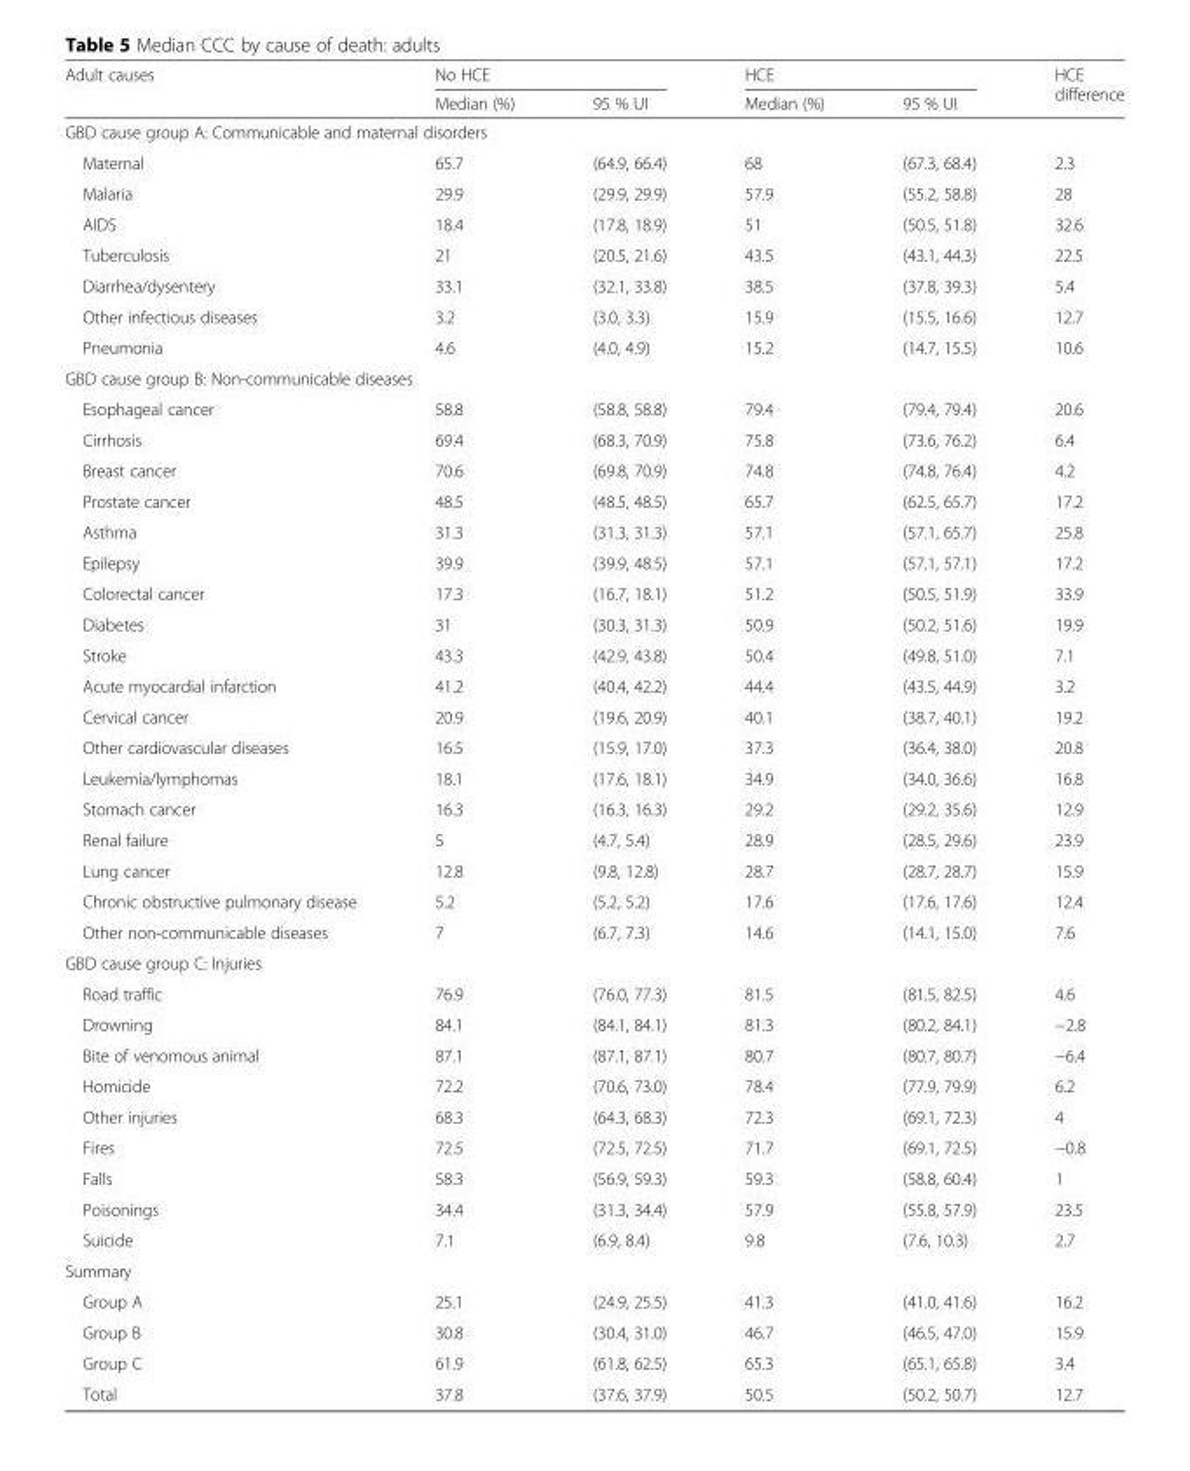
<table><thead><tr><td rowspan="2">Adult causes</td><td colspan="2">No HCE</td><td colspan="2">HCE</td><td rowspan="2">HCE difference</td></tr><tr><td>Median (%)</td><td>95 % UI</td><td>Median (%)</td><td>95 % UI</td></tr></thead><tbody><tr><td colspan="6">GBD cause group A: Communicable and maternal disorders</td></tr><tr><td>Maternal</td><td>65.7</td><td>(64.9, 66.4)</td><td>68</td><td>(67.3, 68.4)</td><td>2.3</td></tr><tr><td>Malaria</td><td>29.9</td><td>(29.9, 29.9)</td><td>57.9</td><td>(55.2, 58.8)</td><td>28</td></tr><tr><td>AIDS</td><td>18.4</td><td>(17.8, 18.9)</td><td>51</td><td>(50.5, 51.8)</td><td>32.6</td></tr><tr><td>Tuberculosis</td><td>21</td><td>(20.5, 21.6)</td><td>43.5</td><td>(43.1, 44.3)</td><td>22.5</td></tr><tr><td>Diarrhea/dysentery</td><td>33.1</td><td>(32.1, 33.8)</td><td>38.5</td><td>(37.8, 39.3)</td><td>5.4</td></tr><tr><td>Other infectious diseases</td><td>3.2</td><td>(3.0, 3.3)</td><td>15.9</td><td>(15.5, 16.6)</td><td>12.7</td></tr><tr><td>Pneumonia</td><td>4.6</td><td>(4.0, 4.9)</td><td>15.2</td><td>(14.7, 15.5)</td><td>10.6</td></tr><tr><td colspan="6">GBD cause group B: Non-communicable diseases</td></tr><tr><td>Esophageal cancer</td><td>58.8</td><td>(58.8, 58.8)</td><td>79.4</td><td>(79.4, 79.4)</td><td>20.6</td></tr><tr><td>Cirrhosis</td><td>69.4</td><td>(68.3, 70.9)</td><td>75.8</td><td>(73.6, 76.2)</td><td>6.4</td></tr><tr><td>Breast cancer</td><td>70.6</td><td>(69.8, 70.9)</td><td>74.8</td><td>(74.8, 76.4)</td><td>4.2</td></tr><tr><td>Prostate cancer</td><td>48.5</td><td>(48.5, 48.5)</td><td>65.7</td><td>(62.5, 65.7)</td><td>17.2</td></tr><tr><td>Asthma</td><td>31.3</td><td>(31.3, 31.3)</td><td>57.1</td><td>(57.1, 65.7)</td><td>25.8</td></tr><tr><td>Epilepsy</td><td>39.9</td><td>(39.9, 48.5)</td><td>57.1</td><td>(57.1, 57.1)</td><td>17.2</td></tr><tr><td>Colorectal cancer</td><td>17.3</td><td>(16.7, 18.1)</td><td>51.2</td><td>(50.5, 51.9)</td><td>33.9</td></tr><tr><td>Diabetes</td><td>31</td><td>(30.3, 31.3)</td><td>50.9</td><td>(50.2, 51.6)</td><td>19.9</td></tr><tr><td>Stroke</td><td>43.3</td><td>(42.9, 43.8)</td><td>50.4</td><td>(49.8, 51.0)</td><td>7.1</td></tr><tr><td>Acute myocardial infarction</td><td>41.2</td><td>(40.4, 42.2)</td><td>44.4</td><td>(43.5, 44.9)</td><td>3.2</td></tr><tr><td>Cervical cancer</td><td>20.9</td><td>(19.6, 20.9)</td><td>40.1</td><td>(38.7, 40.1)</td><td>19.2</td></tr><tr><td>Other cardiovascular diseases</td><td>16.5</td><td>(15.9, 17.0)</td><td>37.3</td><td>(36.4, 38.0)</td><td>20.8</td></tr><tr><td>Leukemia/lymphomas</td><td>18.1</td><td>(17.6, 18.1)</td><td>34.9</td><td>(34.0, 36.6)</td><td>16.8</td></tr><tr><td>Stomach cancer</td><td>16.3</td><td>(16.3, 16.3)</td><td>29.2</td><td>(29.2, 35.6)</td><td>12.9</td></tr><tr><td>Renal failure</td><td>5</td><td>(4.7, 5.4)</td><td>28.9</td><td>(28.5, 29.6)</td><td>23.9</td></tr><tr><td>Lung cancer</td><td>12.8</td><td>(9.8, 12.8)</td><td>28.7</td><td>(28.7, 28.7)</td><td>15.9</td></tr><tr><td>Chronic obstructive pulmonary disease</td><td>5.2</td><td>(5.2, 5.2)</td><td>17.6</td><td>(17.6, 17.6)</td><td>12.4</td></tr><tr><td>Other non-communicable diseases</td><td>7</td><td>(6.7, 7.3)</td><td>14.6</td><td>(14.1, 15.0)</td><td>7.6</td></tr><tr><td colspan="6">GBD cause group C: Injuries</td></tr><tr><td>Road traffic</td><td>76.9</td><td>(76.0, 77.3)</td><td>81.5</td><td>(81.5, 82.5)</td><td>4.6</td></tr><tr><td>Drowning</td><td>84.1</td><td>(84.1, 84.1)</td><td>81.3</td><td>(80.2, 84.1)</td><td>−2.8</td></tr><tr><td>Bite of venomous animal</td><td>87.1</td><td>(87.1, 87.1)</td><td>80.7</td><td>(80.7, 80.7)</td><td>−6.4</td></tr><tr><td>Homicide</td><td>72.2</td><td>(70.6, 73.0)</td><td>78.4</td><td>(77.9, 79.9)</td><td>6.2</td></tr><tr><td>Other injuries</td><td>68.3</td><td>(64.3, 68.3)</td><td>72.3</td><td>(69.1, 72.3)</td><td>4</td></tr><tr><td>Fires</td><td>72.5</td><td>(72.5, 72.5)</td><td>71.7</td><td>(69.1, 72.5)</td><td>−0.8</td></tr><tr><td>Falls</td><td>58.3</td><td>(56.9, 59.3)</td><td>59.3</td><td>(58.8, 60.4)</td><td>1</td></tr><tr><td>Poisonings</td><td>34.4</td><td>(31.3, 34.4)</td><td>57.9</td><td>(55.8, 57.9)</td><td>23.5</td></tr><tr><td>Suicide</td><td>7.1</td><td>(6.9, 8.4)</td><td>9.8</td><td>(7.6, 10.3)</td><td>2.7</td></tr><tr><td colspan="6">Summary</td></tr><tr><td>Group A</td><td>25.1</td><td>(24.9, 25.5)</td><td>41.3</td><td>(41.0, 41.6)</td><td>16.2</td></tr><tr><td>Group B</td><td>30.8</td><td>(30.4, 31.0)</td><td>46.7</td><td>(46.5, 47.0)</td><td>15.9</td></tr><tr><td>Group C</td><td>61.9</td><td>(61.8, 62.5)</td><td>65.3</td><td>(65.1, 65.8)</td><td>3.4</td></tr><tr><td>Total</td><td>37.8</td><td>(37.6, 37.9)</td><td>50.5</td><td>(50.2, 50.7)</td><td>12.7</td></tr></tbody></table>